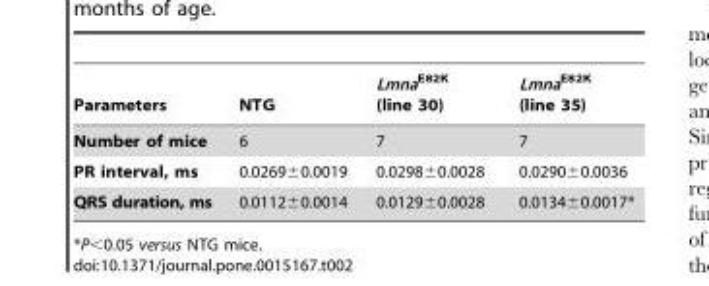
<table><thead><tr><td>Parameters</td><td>NTG</td><td>Lmna<sup>E82K</sup> (line 30)</td><td>Lmna<sup>E82K</sup> (line 35)</td></tr></thead><tbody><tr><td>Number of mice</td><td>6</td><td>7</td><td>7</td></tr><tr><td>PR interval, ms</td><td>0.0269±0.0019</td><td>0.0298±0.0028</td><td>0.0290±0.0036</td></tr><tr><td>QRS duration, ms</td><td>0.0112±0.0014</td><td>0.0129±0.0028</td><td>0.0134±0.0017*</td></tr></tbody></table>